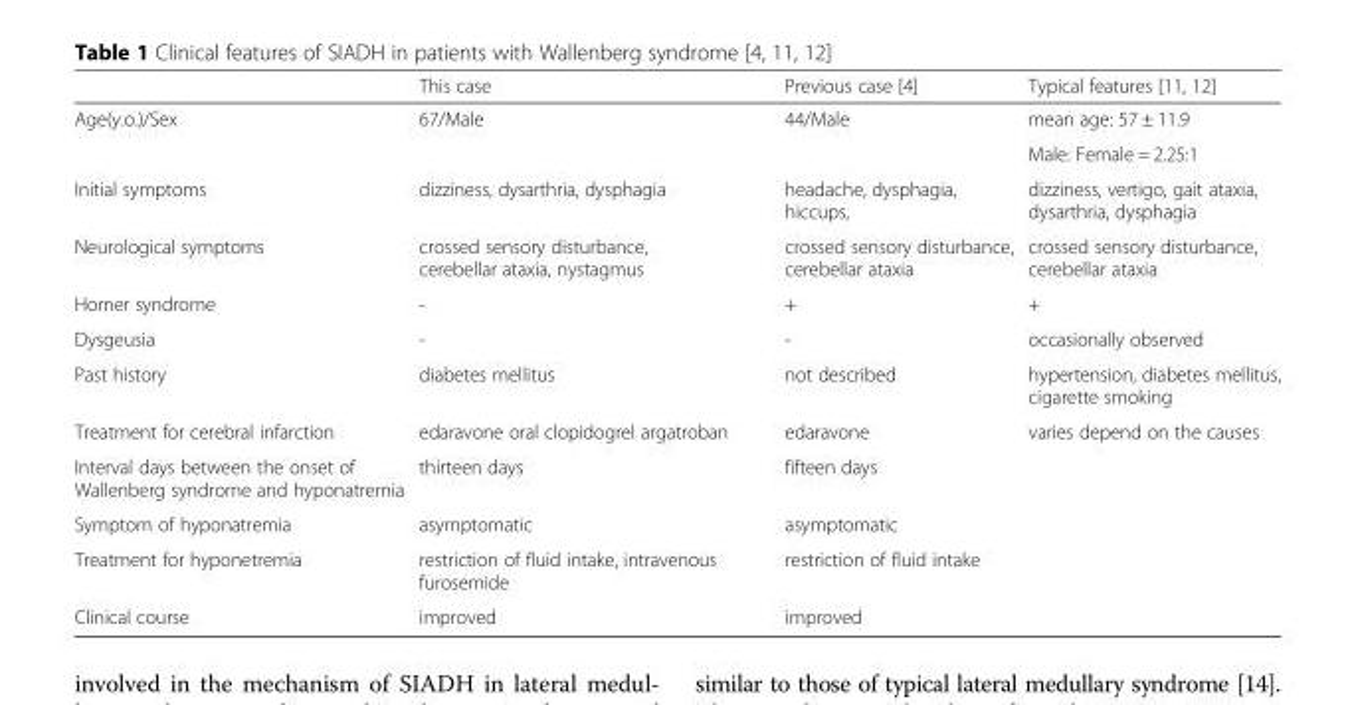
<table><thead><tr><td></td><td>This case</td><td>Previous case [4]</td><td>Typical features [11, 12]</td></tr></thead><tbody><tr><td rowspan="2">Age(y.o.)/Sex</td><td>67/Male</td><td>44/Male</td><td>mean age: 57 ± 11.9</td></tr><tr><td></td><td></td><td>Male: Female = 2.25:1</td></tr><tr><td>Initial symptoms</td><td>dizziness, dysarthria, dysphagia</td><td>headache, dysphagia, hiccups,</td><td>dizziness, vertigo, gait ataxia, dysarthria, dysphagia</td></tr><tr><td>Neurological symptoms</td><td>crossed sensory disturbance, cerebellar ataxia, nystagmus</td><td>crossed sensory disturbance, cerebellar ataxia</td><td>crossed sensory disturbance, cerebellar ataxia</td></tr><tr><td>Horner syndrome</td><td>-</td><td>+</td><td>+</td></tr><tr><td>Dysgeusia</td><td>-</td><td>-</td><td>occasionally observed</td></tr><tr><td>Past history</td><td>diabetes mellitus</td><td>not described</td><td>hypertension, diabetes mellitus, cigarette smoking</td></tr><tr><td>Treatment for cerebral infarction</td><td>edaravone oral clopidogrel argatroban</td><td>edaravone</td><td>varies depend on the causes</td></tr><tr><td>Interval days between the onset of Wallenberg syndrome and hyponatremia</td><td>thirteen days</td><td>fifteen days</td><td></td></tr><tr><td>Symptom of hyponatremia</td><td>asymptomatic</td><td>asymptomatic</td><td></td></tr><tr><td>Treatment for hyponetremia</td><td>restriction of fluid intake, intravenous furosemide</td><td>restriction of fluid intake</td><td></td></tr><tr><td>Clinical course</td><td>improved</td><td>improved</td><td></td></tr></tbody></table>